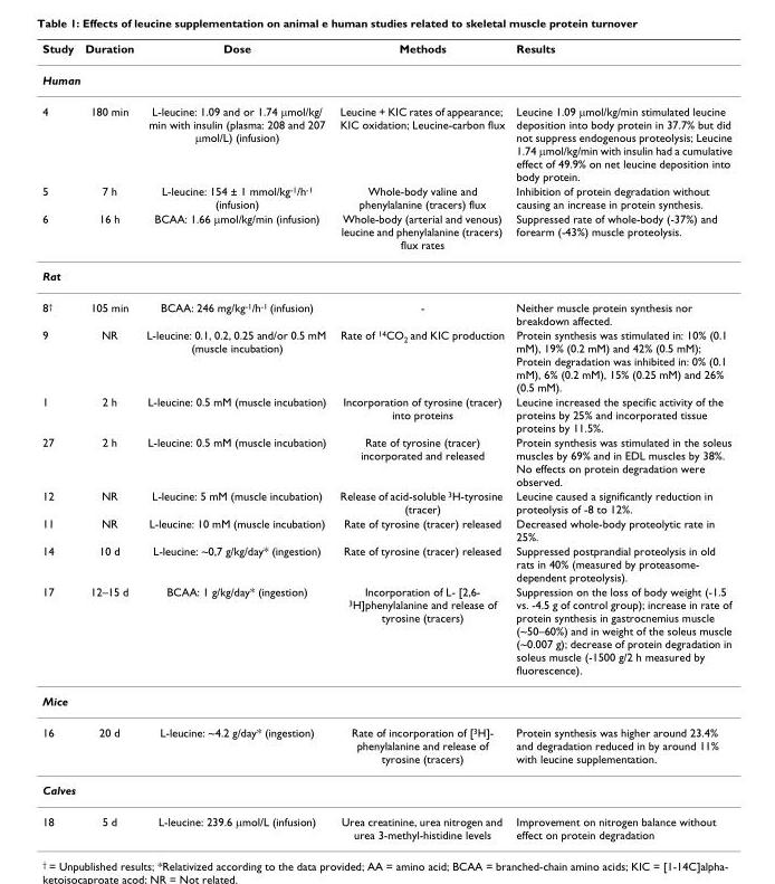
<table><thead><tr><td>Study</td><td>Duration</td><td>Dose</td><td>Methods</td><td>Results</td></tr></thead><tbody><tr><td colspan="5">Human</td></tr><tr><td>4</td><td>180 min</td><td>L-leucine: 1.09 and or 1.74 μmol/kg/ min with insulin (plasma: 208 and 207 μmol/L) (infusion)</td><td>Leucine + KIC rates of appearance; KIC oxidation; Leucine-carbon flux</td><td>Leucine 1.09 μmol/kg/min stimulated leucine deposition into body protein in 37.7% but did not suppress endogenous proteolysis; Leucine 1.74 μmol/kg/min with insulin had a cumulative effect of 49.9% on net leucine deposition into body protein.</td></tr><tr><td>5</td><td>7 h</td><td>L-leucine: 154 ± 1 mmol/kg<sup>-1</sup>/h<sup>-1</sup> (infusion)</td><td>Whole-body valine and phenylalanine (tracers) flux</td><td>Inhibition of protein degradation without causing an increase in protein synthesis.</td></tr><tr><td>6</td><td>16 h</td><td>BCAA: 1.66 μmol/kg/min (infusion)</td><td>Whole-body (arterial and venous) leucine and phenylalanine (tracers) flux rates</td><td>Suppressed rate of whole-body (-37%) and forearm (-43%) muscle proteolysis.</td></tr><tr><td colspan="5">Rat</td></tr><tr><td>8<sup>†</sup></td><td>105 min</td><td>BCAA: 246 mg/kg<sup>-1</sup>/h<sup>-1</sup> (infusion)</td><td>-</td><td>Neither muscle protein synthesis nor breakdown affected.</td></tr><tr><td>9</td><td>NR</td><td>L-leucine: 0.1, 0.2, 0.25 and/or 0.5 mM (muscle incubation)</td><td>Rate of <sup>14</sup>CO<sub>2</sub> and KIC production</td><td>Protein synthesis was stimulated in: 10% (0.1 mM), 19% (0.2 mM) and 42% (0.5 mM); Protein degradation was inhibited in: 0% (0.1 mM), 6% (0.2 mM), 15% (0.25 mM) and 26% (0.5 mM).</td></tr><tr><td>1</td><td>2 h</td><td>L-leucine: 0.5 mM (muscle incubation)</td><td>Incorporation of tyrosine (tracer) into proteins</td><td>Leucine increased the specific activity of the proteins by 25% and incorporated tissue proteins by 11.5%.</td></tr><tr><td>27</td><td>2 h</td><td>L-leucine: 0.5 mM (muscle incubation)</td><td>Rate of tyrosine (tracer) incorporated and released</td><td>Protein synthesis was stimulated in the soleus muscles by 69% and in EDL muscles by 38%. No effects on protein degradation were observed.</td></tr><tr><td>12</td><td>NR</td><td>L-leucine: 5 mM (muscle incubation)</td><td>Release of acid-soluble <sup>3</sup>H-tyrosine (tracer)</td><td>Leucine caused a significantly reduction in proteolysis of -8 to 12%.</td></tr><tr><td>11</td><td>NR</td><td>L-leucine: 10 mM (muscle incubation)</td><td>Rate of tyrosine (tracer) released</td><td>Decreased whole-body proteolytic rate in 25%.</td></tr><tr><td>14</td><td>10 d</td><td>L-leucine: ~0,7 g/kg/day* (ingestion)</td><td>Rate of tyrosine (tracer) released</td><td>Suppressed postprandial proteolysis in old rats in 40% (measured by proteasome- dependent proteolysis).</td></tr><tr><td>17</td><td>12–15 d</td><td>BCAA: 1 g/kg/day* (ingestion)</td><td>Incorporation of L- [2,6- <sup>3</sup>H]phenylalanine and release of tyrosine (tracers)</td><td>Suppression on the loss of body weight (-1.5 vs. -4.5 g of control group); increase in rate of protein synthesis in gastrocnemius muscle (~50–60%) and in weight of the soleus muscle (~0.007 g); decrease of protein degradation in soleus muscle (-1500 g/2 h measured by fluorescence).</td></tr><tr><td colspan="5">Mice</td></tr><tr><td>16</td><td>20 d</td><td>L-leucine: ~4.2 g/day* (ingestion)</td><td>Rate of incorporation of [<sup>3</sup>H]- phenylalanine and release of tyrosine (tracers)</td><td>Protein synthesis was higher around 23.4% and degradation reduced in by around 11% with leucine supplementation.</td></tr><tr><td colspan="5">Calves</td></tr><tr><td>18</td><td>5 d</td><td>L-leucine: 239.6 μmol/L (infusion)</td><td>Urea creatinine, urea nitrogen and urea 3-methyl-histidine levels</td><td>Improvement on nitrogen balance without effect on protein degradation</td></tr></tbody></table>